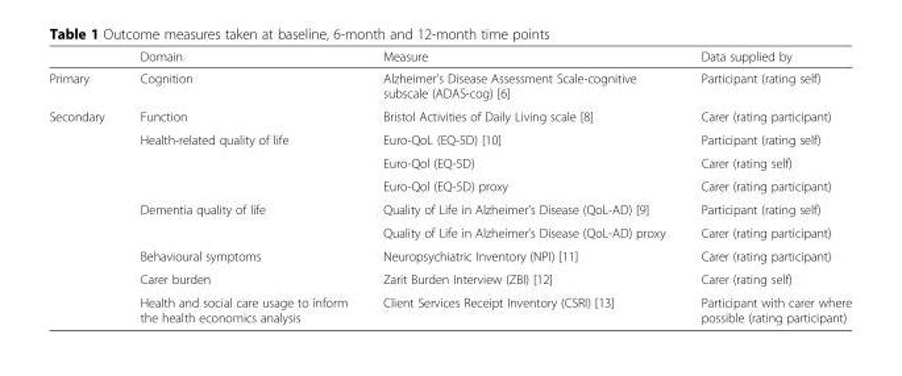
<table><thead><tr><td></td><td>Domain</td><td>Measure</td><td>Data supplied by</td></tr></thead><tbody><tr><td>Primary</td><td>Cognition</td><td>Alzheimer’s Disease Assessment Scale-cognitive subscale (ADAS-cog) [6]</td><td>Participant (rating self)</td></tr><tr><td rowspan="9">Secondary</td><td>Function</td><td>Bristol Activities of Daily Living scale [8]</td><td>Carer (rating participant)</td></tr><tr><td rowspan="3">Health-related quality of life</td><td>Euro-QoL (EQ-5D) [10]</td><td>Participant (rating self)</td></tr><tr><td>Euro-Qol (EQ-5D)</td><td>Carer (rating self)</td></tr><tr><td>Euro-Qol (EQ-5D) proxy</td><td>Carer (rating participant)</td></tr><tr><td rowspan="2">Dementia quality of life</td><td>Quality of Life in Alzheimer’s Disease (QoL-AD) [9]</td><td>Participant (rating self)</td></tr><tr><td>Quality of Life in Alzheimer’s Disease (QoL-AD) proxy</td><td>Carer (rating participant)</td></tr><tr><td>Behavioural symptoms</td><td>Neuropsychiatric Inventory (NPI) [11]</td><td>Carer (rating participant)</td></tr><tr><td>Carer burden</td><td>Zarit Burden Interview (ZBI) [12]</td><td>Carer (rating self)</td></tr><tr><td>Health and social care usage to inform the health economics analysis</td><td>Client Services Receipt Inventory (CSRI) [13]</td><td>Participant with carer where possible (rating participant)</td></tr></tbody></table>